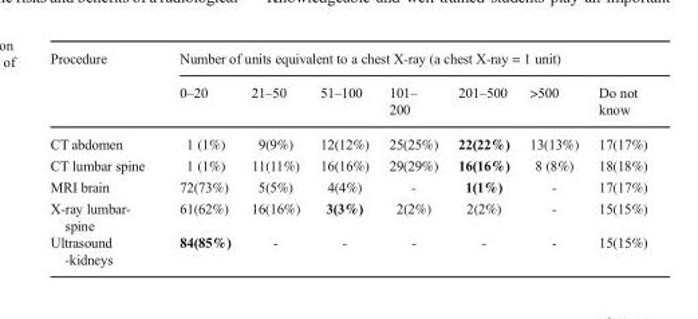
<table><thead><tr><td rowspan="2">Procedure</td><td colspan="7">Number of units equivalent to a chest X-ray (a chest X-ray = 1 unit)</td></tr><tr><td>0–20</td><td>21–50</td><td>51–100</td><td>101– 200</td><td>201–500</td><td>&gt;500</td><td>Do not know</td></tr></thead><tbody><tr><td>CT abdomen</td><td>1 (1%)</td><td>9(9%)</td><td>12(12%)</td><td>25(25%)</td><td>22(22%)</td><td>13(13%)</td><td>17(17%)</td></tr><tr><td>CT lumbar spine</td><td>1 (1%)</td><td>11(11%)</td><td>16(16%)</td><td>29(29%)</td><td>16(16%)</td><td>8 (8%)</td><td>18(18%)</td></tr><tr><td>MRI brain</td><td>72(73%)</td><td>5(5%)</td><td>4(4%)</td><td>-</td><td>1(1%)</td><td>-</td><td>17(17%)</td></tr><tr><td>X-ray lumbar- spine</td><td>61(62%)</td><td>16(16%)</td><td>3(3%)</td><td>2(2%)</td><td>2(2%)</td><td>-</td><td>15(15%)</td></tr><tr><td>Ultrasound -kidneys</td><td>84(85%)</td><td>-</td><td>-</td><td>-</td><td>-</td><td>-</td><td>15(15%)</td></tr></tbody></table>